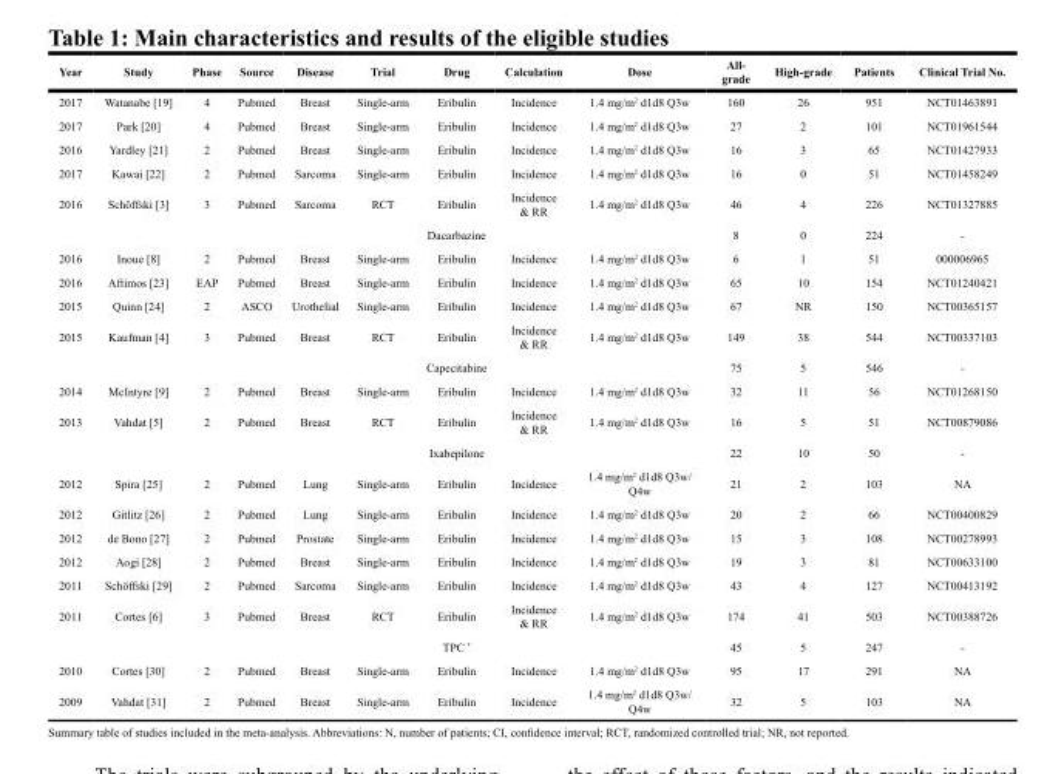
<table><thead><tr><td>Year</td><td>Study</td><td>Phase</td><td>Source</td><td>Disease</td><td>Trial</td><td>Drug</td><td>Calculation</td><td>Dose</td><td>All- grade</td><td>High-grade</td><td>Patients</td><td>Clinical Trial No.</td></tr></thead><tbody><tr><td>2017</td><td>Watanabe [19]</td><td>4</td><td>Pubmed</td><td>Breast</td><td>Single-arm</td><td>Eribulin</td><td>Incidence</td><td>1.4 mg/m<sup>2</sup> d1d8 Q3w</td><td>160</td><td>26</td><td>951</td><td>NCT01463891</td></tr><tr><td>2017</td><td>Park [20]</td><td>4</td><td>Pubmed</td><td>Breast</td><td>Single-arm</td><td>Eribulin</td><td>Incidence</td><td>1.4 mg/m<sup>2</sup> d1d8 Q3w</td><td>27</td><td>2</td><td>101</td><td>NCT01961544</td></tr><tr><td>2016</td><td>Yardley [21]</td><td>2</td><td>Pubmed</td><td>Breast</td><td>Single-arm</td><td>Eribulin</td><td>Incidence</td><td>1.4 mg/m<sup>2</sup> d1d8 Q3w</td><td>16</td><td>3</td><td>65</td><td>NCT01427933</td></tr><tr><td>2017</td><td>Kawai [22]</td><td>2</td><td>Pubmed</td><td>Sarcoma</td><td>Single-arm</td><td>Eribulin</td><td>Incidence</td><td>1.4 mg/m<sup>2</sup> d1d8 Q3w</td><td>16</td><td>0</td><td>51</td><td>NCT01458249</td></tr><tr><td rowspan="2">2016</td><td>Schöffski [3]</td><td>3</td><td>Pubmed</td><td>Sarcoma</td><td>RCT</td><td>Eribulin</td><td>Incidence &amp; RR</td><td>1.4 mg/m<sup>2</sup> d1d8 Q3w</td><td>46</td><td>4</td><td>226</td><td>NCT01327885</td></tr><tr><td></td><td></td><td></td><td></td><td></td><td>Dacarbazine</td><td></td><td></td><td>8</td><td>0</td><td>224</td><td>-</td></tr><tr><td>2016</td><td>Inoue [8]</td><td>2</td><td>Pubmed</td><td>Breast</td><td>Single-arm</td><td>Eribulin</td><td>Incidence</td><td>1.4 mg/m<sup>2</sup> d1d8 Q3w</td><td>6</td><td>1</td><td>51</td><td>000006965</td></tr><tr><td>2016</td><td>Aftimos [23]</td><td>EAP</td><td>Pubmed</td><td>Breast</td><td>Single-arm</td><td>Eribulin</td><td>Incidence</td><td>1.4 mg/m<sup>2</sup> d1d8 Q3w</td><td>65</td><td>10</td><td>154</td><td>NCT01240421</td></tr><tr><td>2015</td><td>Quinn [24]</td><td>2</td><td>ASCO</td><td>Urothelial</td><td>Single-arm</td><td>Eribulin</td><td>Incidence</td><td>1.4 mg/m<sup>2</sup> d1d8 Q3w</td><td>67</td><td>NR</td><td>150</td><td>NCT00365157</td></tr><tr><td rowspan="2">2015</td><td>Kaufman [4]</td><td>3</td><td>Pubmed</td><td>Breast</td><td>RCT</td><td>Eribulin</td><td>Incidence &amp; RR</td><td>1.4 mg/m<sup>2</sup> d1d8 Q3w</td><td>149</td><td>38</td><td>544</td><td>NCT00337103</td></tr><tr><td></td><td></td><td></td><td></td><td></td><td>Capecitabine</td><td></td><td></td><td>75</td><td>5</td><td>546</td><td>-</td></tr><tr><td>2014</td><td>McIntyre [9]</td><td>2</td><td>Pubmed</td><td>Breast</td><td>Single-arm</td><td>Eribulin</td><td>Incidence</td><td>1.4 mg/m<sup>2</sup> d1d8 Q3w</td><td>32</td><td>11</td><td>56</td><td>NCT01268150</td></tr><tr><td rowspan="2">2013</td><td>Vahdat [5]</td><td>2</td><td>Pubmed</td><td>Breast</td><td>RCT</td><td>Eribulin</td><td>Incidence &amp; RR</td><td>1.4 mg/m<sup>2</sup> d1d8 Q3w</td><td>16</td><td>5</td><td>51</td><td>NCT00879086</td></tr><tr><td></td><td></td><td></td><td></td><td></td><td>Ixabepilone</td><td></td><td></td><td>22</td><td>10</td><td>50</td><td>-</td></tr><tr><td>2012</td><td>Spira [25]</td><td>2</td><td>Pubmed</td><td>Lung</td><td>Single-arm</td><td>Eribulin</td><td>Incidence</td><td>1.4 mg/m<sup>2</sup> d1d8 Q3w/ Q4w</td><td>21</td><td>2</td><td>103</td><td>NA</td></tr><tr><td>2012</td><td>Gitlitz [26]</td><td>2</td><td>Pubmed</td><td>Lung</td><td>Single-arm</td><td>Eribulin</td><td>Incidence</td><td>1.4 mg/m<sup>2</sup> d1d8 Q3w</td><td>20</td><td>2</td><td>66</td><td>NCT00400829</td></tr><tr><td>2012</td><td>de Bono [27]</td><td>2</td><td>Pubmed</td><td>Prostate</td><td>Single-arm</td><td>Eribulin</td><td>Incidence</td><td>1.4 mg/m<sup>2</sup> d1d8 Q3w</td><td>15</td><td>3</td><td>108</td><td>NCT00278993</td></tr><tr><td>2012</td><td>Aogi [28]</td><td>2</td><td>Pubmed</td><td>Breast</td><td>Single-arm</td><td>Eribulin</td><td>Incidence</td><td>1.4 mg/m<sup>2</sup> d1d8 Q3w</td><td>19</td><td>3</td><td>81</td><td>NCT00633100</td></tr><tr><td>2011</td><td>Schöffski [29]</td><td>2</td><td>Pubmed</td><td>Sarcoma</td><td>Single-arm</td><td>Eribulin</td><td>Incidence</td><td>1.4 mg/m<sup>2</sup> d1d8 Q3w</td><td>43</td><td>4</td><td>127</td><td>NCT00413192</td></tr><tr><td rowspan="2">2011</td><td>Cortes [6]</td><td>3</td><td>Pubmed</td><td>Breast</td><td>RCT</td><td>Eribulin</td><td>Incidence &amp; RR</td><td>1.4 mg/m<sup>2</sup> d1d8 Q3w</td><td>174</td><td>41</td><td>503</td><td>NCT00388726</td></tr><tr><td></td><td></td><td></td><td></td><td></td><td>TPC *</td><td></td><td></td><td>45</td><td>5</td><td>247</td><td>-</td></tr><tr><td>2010</td><td>Cortes [30]</td><td>2</td><td>Pubmed</td><td>Breast</td><td>Single-arm</td><td>Eribulin</td><td>Incidence</td><td>1.4 mg/m<sup>2</sup> d1d8 Q3w</td><td>95</td><td>17</td><td>291</td><td>NA</td></tr><tr><td>2009</td><td>Vahdat [31]</td><td>2</td><td>Pubmed</td><td>Breast</td><td>Single-arm</td><td>Eribulin</td><td>Incidence</td><td>1.4 mg/m<sup>2</sup> d1d8 Q3w/ Q4w</td><td>32</td><td>5</td><td>103</td><td>NA</td></tr></tbody></table>